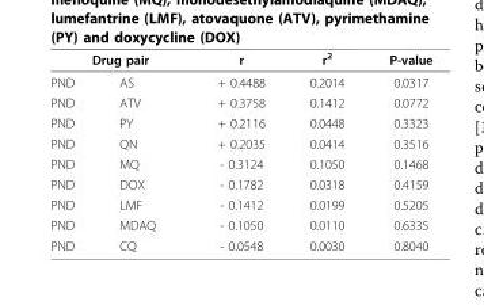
<table><thead><tr><td colspan="2">Drug pair</td><td rowspan="2">r + 0.4488</td><td rowspan="2">r<sup>2</sup> 0.2014</td><td rowspan="2">P-value 0.0317</td></tr><tr><td>PND</td><td>AS</td></tr></thead><tbody><tr><td>PND</td><td>ATV</td><td>+ 0.3758</td><td>0.1412</td><td>0.0772</td></tr><tr><td>PND</td><td>PY</td><td>+ 0.2116</td><td>0.0448</td><td>0.3323</td></tr><tr><td>PND</td><td>QN</td><td>+ 0.2035</td><td>0.0414</td><td>0.3516</td></tr><tr><td>PND</td><td>MQ</td><td>- 0.3124</td><td>0.1050</td><td>0.1468</td></tr><tr><td>PND</td><td>DOX</td><td>- 0.1782</td><td>0.0318</td><td>0.4159</td></tr><tr><td>PND</td><td>LMF</td><td>- 0.1412</td><td>0.0199</td><td>0.5205</td></tr><tr><td>PND</td><td>MDAQ</td><td>- 0.1050</td><td>0.0110</td><td>0.6335</td></tr><tr><td>PND</td><td>CQ</td><td>- 0.0548</td><td>0.0030</td><td>0.8040</td></tr></tbody></table>